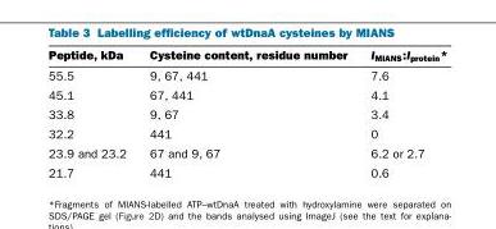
<table><thead><tr><td>Peptide, kDa</td><td>Cysteine content, residue number</td><td>I<sub>MIANS</sub>:I<sub>protein</sub>*</td></tr></thead><tbody><tr><td>55.5</td><td>9, 67, 441</td><td>7.6</td></tr><tr><td>45.1</td><td>67, 441</td><td>4.1</td></tr><tr><td>33.8</td><td>9, 67</td><td>3.4</td></tr><tr><td>32.2</td><td>441</td><td>0</td></tr><tr><td>23.9 and 23.2</td><td>67 and 9, 67</td><td>6.2 or 2.7</td></tr><tr><td>21.7</td><td>441</td><td>0.6</td></tr></tbody></table>